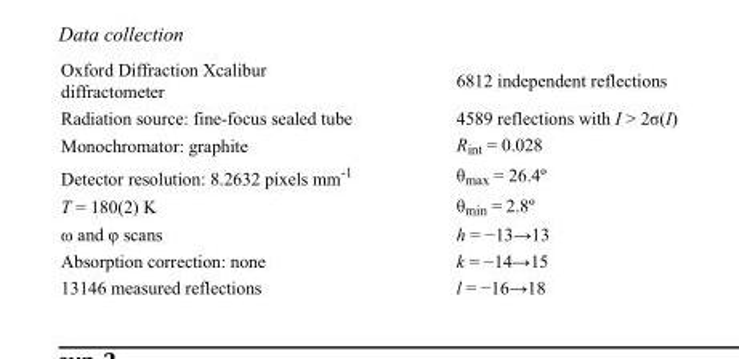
<table><tbody><tr><td>Oxford Diffraction Xcalibur diffractometer</td><td>6812 independent reflections</td></tr><tr><td>Radiation source: fine-focus sealed tube</td><td>4589 reflections with I &gt; 2σ(I)</td></tr><tr><td>Monochromator: graphite</td><td>R<sub>int</sub> = 0.028</td></tr><tr><td>Detector resolution: 8.2632 pixels mm<sup>-1</sup></td><td>θ<sub>max</sub> = 26.4º</td></tr><tr><td>T = 180(2) K</td><td>θ<sub>min</sub> = 2.8º</td></tr><tr><td>ω and φ scans</td><td>h = −13→13</td></tr><tr><td>Absorption correction: none</td><td>k = −14→15</td></tr><tr><td>13146 measured reflections</td><td>l = −16→18</td></tr></tbody></table>